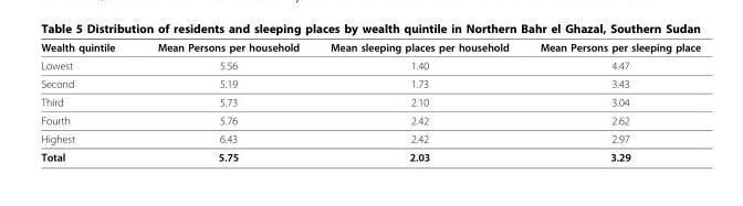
<table><thead><tr><td>Wealth quintile</td><td>Mean Persons per household</td><td>Mean sleeping places per household</td><td>Mean Persons per sleeping place</td></tr></thead><tbody><tr><td>Lowest</td><td>5.56</td><td>1.40</td><td>4.47</td></tr><tr><td>Second</td><td>5.19</td><td>1.73</td><td>3.43</td></tr><tr><td>Third</td><td>5.73</td><td>2.10</td><td>3.04</td></tr><tr><td>Fourth</td><td>5.76</td><td>2.42</td><td>2.62</td></tr><tr><td>Highest</td><td>6.43</td><td>2.42</td><td>2.97</td></tr><tr><td>Total</td><td>5.75</td><td>2.03</td><td>3.29</td></tr></tbody></table>